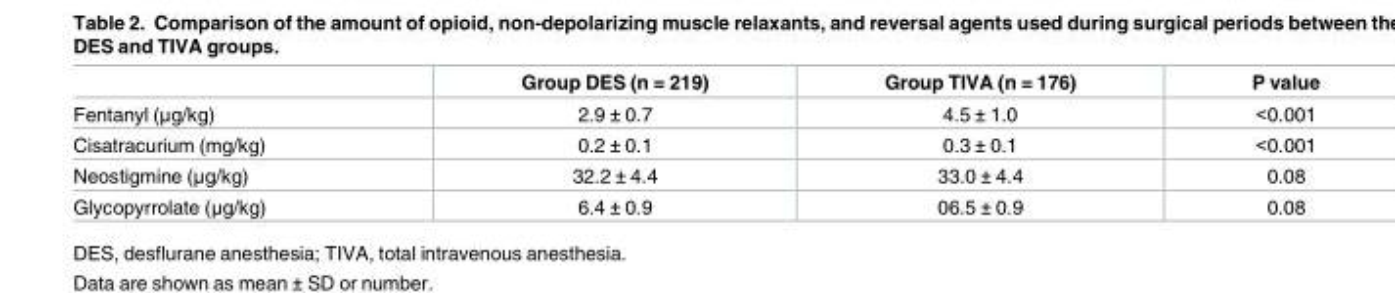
<table><thead><tr><td></td><td>Group DES (n = 219)</td><td>Group TIVA (n = 176)</td><td>P value</td></tr></thead><tbody><tr><td>Fentanyl (μg/kg)</td><td>2.9 ± 0.7</td><td>4.5 ± 1.0</td><td>&lt;0.001</td></tr><tr><td>Cisatracurium (mg/kg)</td><td>0.2 ± 0.1</td><td>0.3 ± 0.1</td><td>&lt;0.001</td></tr><tr><td>Neostigmine (μg/kg)</td><td>32.2 ± 4.4</td><td>33.0 ± 4.4</td><td>0.08</td></tr><tr><td>Glycopyrrolate (μg/kg)</td><td>6.4 ± 0.9</td><td>06.5 ± 0.9</td><td>0.08</td></tr></tbody></table>